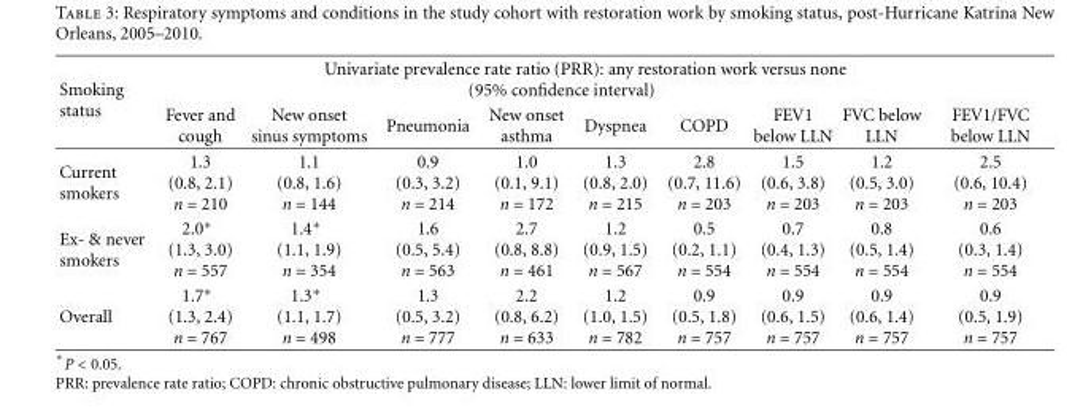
<table><thead><tr><td rowspan="2">Smoking status</td><td colspan="9">Univariate prevalence rate ratio (PRR): any restoration work versus none (95% confidence interval)</td></tr><tr><td>Fever and cough</td><td>New onset sinus symptoms</td><td>Pneumonia</td><td>New onset asthma</td><td>Dyspnea</td><td>COPD</td><td>FEV1 below LLN</td><td>FVC below LLN</td><td>FEV1/FVC below LLN</td></tr></thead><tbody><tr><td>Current smokers</td><td>1.3 (0.8, 2.1) n = 210</td><td>1.1 (0.8, 1.6) n = 144</td><td>0.9 (0.3, 3.2) n = 214</td><td>1.0 (0.1, 9.1) n = 172</td><td>1.3 (0.8, 2.0) n = 215</td><td>2.8 (0.7, 11.6) n = 203</td><td>1.5 (0.6, 3.8) n = 203</td><td>1.2 (0.5, 3.0) n = 203</td><td>2.5 (0.6, 10.4) n = 203</td></tr><tr><td>Ex- &amp; never smokers</td><td>2.0∗ (1.3, 3.0) n = 557</td><td>1.4∗ (1.1, 1.9) n = 354</td><td>1.6 (0.5, 5.4) n = 563</td><td>2.7 (0.8, 8.8) n = 461</td><td>1.2 (0.9, 1.5) n = 567</td><td>0.5 (0.2, 1.1) n = 554</td><td>0.7 (0.4, 1.3) n = 554</td><td>0.8 (0.5, 1.4) n = 554</td><td>0.6 (0.3, 1.4) n = 554</td></tr><tr><td>Overall</td><td>1.7∗ (1.3, 2.4) n = 767</td><td>1.3∗ (1.1, 1.7) n = 498</td><td>1.3 (0.5, 3.2) n = 777</td><td>2.2 (0.8, 6.2) n = 633</td><td>1.2 (1.0, 1.5) n = 782</td><td>0.9 (0.5, 1.8) n = 757</td><td>0.9 (0.6, 1.5) n = 757</td><td>0.9 (0.6, 1.4) n = 757</td><td>0.9 (0.5, 1.9) n = 757</td></tr></tbody></table>